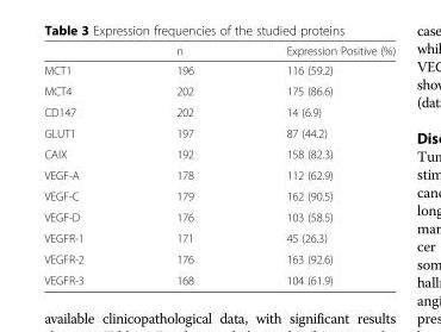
<table><thead><tr><td></td><td>n</td><td>Expression Positive (%)</td></tr></thead><tbody><tr><td>MCT1</td><td>196</td><td>116 (59.2)</td></tr><tr><td>MCT4</td><td>202</td><td>175 (86.6)</td></tr><tr><td>CD147</td><td>202</td><td>14 (6.9)</td></tr><tr><td>GLUT1</td><td>197</td><td>87 (44.2)</td></tr><tr><td>CAIX</td><td>192</td><td>158 (82.3)</td></tr><tr><td>VEGF-A</td><td>178</td><td>112 (62.9)</td></tr><tr><td>VEGF-C</td><td>179</td><td>162 (90.5)</td></tr><tr><td>VEGF-D</td><td>176</td><td>103 (58.5)</td></tr><tr><td>VEGFR-1</td><td>171</td><td>45 (26.3)</td></tr><tr><td>VEGFR-2</td><td>176</td><td>163 (92.6)</td></tr><tr><td>VEGFR-3</td><td>168</td><td>104 (61.9)</td></tr></tbody></table>